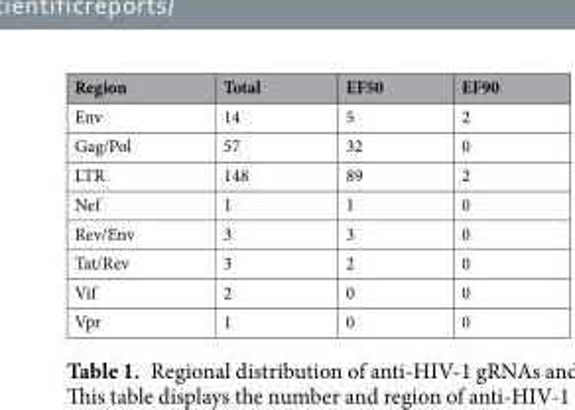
<table><thead><tr><td>Region</td><td>Total</td><td>EF50</td><td>EF90</td></tr></thead><tbody><tr><td>Env</td><td>14</td><td>5</td><td>2</td></tr><tr><td>Gag/Pol</td><td>57</td><td>32</td><td>0</td></tr><tr><td>LTR</td><td>148</td><td>89</td><td>2</td></tr><tr><td>Nef</td><td>1</td><td>1</td><td>0</td></tr><tr><td>Rev/Env</td><td>3</td><td>3</td><td>0</td></tr><tr><td>Tat/Rev</td><td>3</td><td>2</td><td>0</td></tr><tr><td>Vif</td><td>2</td><td>0</td><td>0</td></tr><tr><td>Vpr</td><td>1</td><td>0</td><td>0</td></tr></tbody></table>